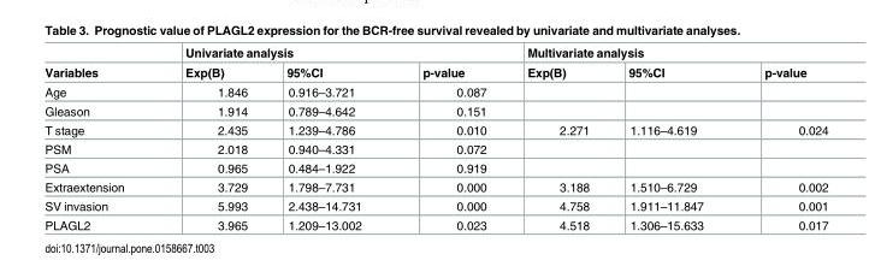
<table><thead><tr><td rowspan="2">Variables</td><td colspan="3">Univariate analysis</td><td colspan="3">Multivariate analysis</td></tr><tr><td>Exp(B)</td><td>95%CI</td><td>p-value</td><td>Exp(B)</td><td>95%CI</td><td>p-value</td></tr></thead><tbody><tr><td>Age</td><td>1.846</td><td>0.916–3.721</td><td>0.087</td><td></td><td></td><td></td></tr><tr><td>Gleason</td><td>1.914</td><td>0.789–4.642</td><td>0.151</td><td></td><td></td><td></td></tr><tr><td>T stage</td><td>2.435</td><td>1.239–4.786</td><td>0.010</td><td>2.271</td><td>1.116–4.619</td><td>0.024</td></tr><tr><td>PSM</td><td>2.018</td><td>0.940–4.331</td><td>0.072</td><td></td><td></td><td></td></tr><tr><td>PSA</td><td>0.965</td><td>0.484–1.922</td><td>0.919</td><td></td><td></td><td></td></tr><tr><td>Extraextension</td><td>3.729</td><td>1.798–7.731</td><td>0.000</td><td>3.188</td><td>1.510–6.729</td><td>0.002</td></tr><tr><td>SV invasion</td><td>5.993</td><td>2.438–14.731</td><td>0.000</td><td>4.758</td><td>1.911–11.847</td><td>0.001</td></tr><tr><td>PLAGL2</td><td>3.965</td><td>1.209–13.002</td><td>0.023</td><td>4.518</td><td>1.306–15.633</td><td>0.017</td></tr></tbody></table>